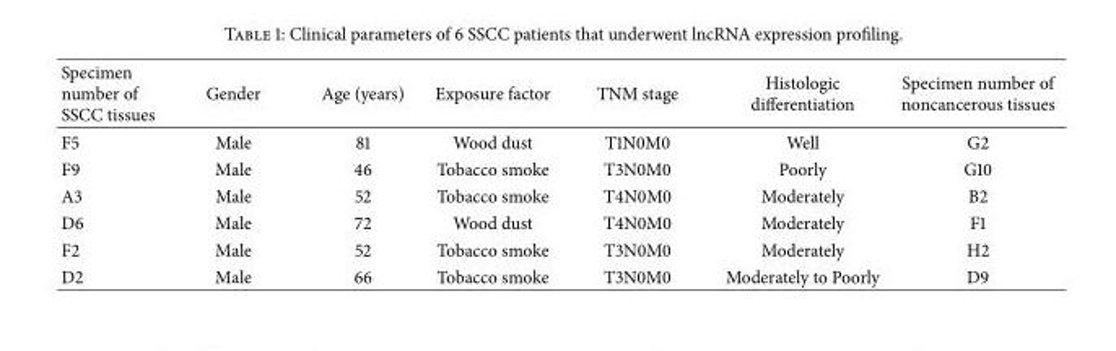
<table><thead><tr><td>Specimen number of SSCC tissues</td><td>Gender</td><td>Age (years)</td><td>Exposure factor</td><td>TNM stage</td><td>Histologic differentiation</td><td>Specimen number of noncancerous tissues</td></tr></thead><tbody><tr><td>F5</td><td>Male</td><td>81</td><td>Wood dust</td><td>T1N0M0</td><td>Well</td><td>G2</td></tr><tr><td>F9</td><td>Male</td><td>46</td><td>Tobacco smoke</td><td>T3N0M0</td><td>Poorly</td><td>G10</td></tr><tr><td>A3</td><td>Male</td><td>52</td><td>Tobacco smoke</td><td>T4N0M0</td><td>Moderately</td><td>B2</td></tr><tr><td>D6</td><td>Male</td><td>72</td><td>Wood dust</td><td>T4N0M0</td><td>Moderately</td><td>F1</td></tr><tr><td>F2</td><td>Male</td><td>52</td><td>Tobacco smoke</td><td>T3N0M0</td><td>Moderately</td><td>H2</td></tr><tr><td>D2</td><td>Male</td><td>66</td><td>Tobacco smoke</td><td>T3N0M0</td><td>Moderately to Poorly</td><td>D9</td></tr></tbody></table>